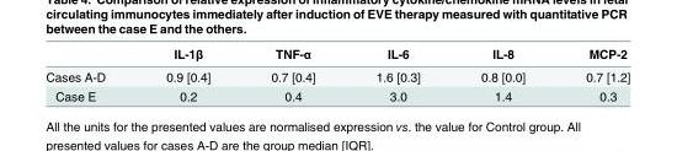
<table><thead><tr><td></td><td>IL-1β</td><td>TNF-α</td><td>IL-6</td><td>IL-8</td><td>MCP-2</td></tr></thead><tbody><tr><td>Cases A-D</td><td>0.9 [0.4]</td><td>0.7 [0.4]</td><td>1.6 [0.3]</td><td>0.8 [0.0]</td><td>0.7 [1.2]</td></tr><tr><td>Case E</td><td>0.2</td><td>0.4</td><td>3.0</td><td>1.4</td><td>0.3</td></tr></tbody></table>